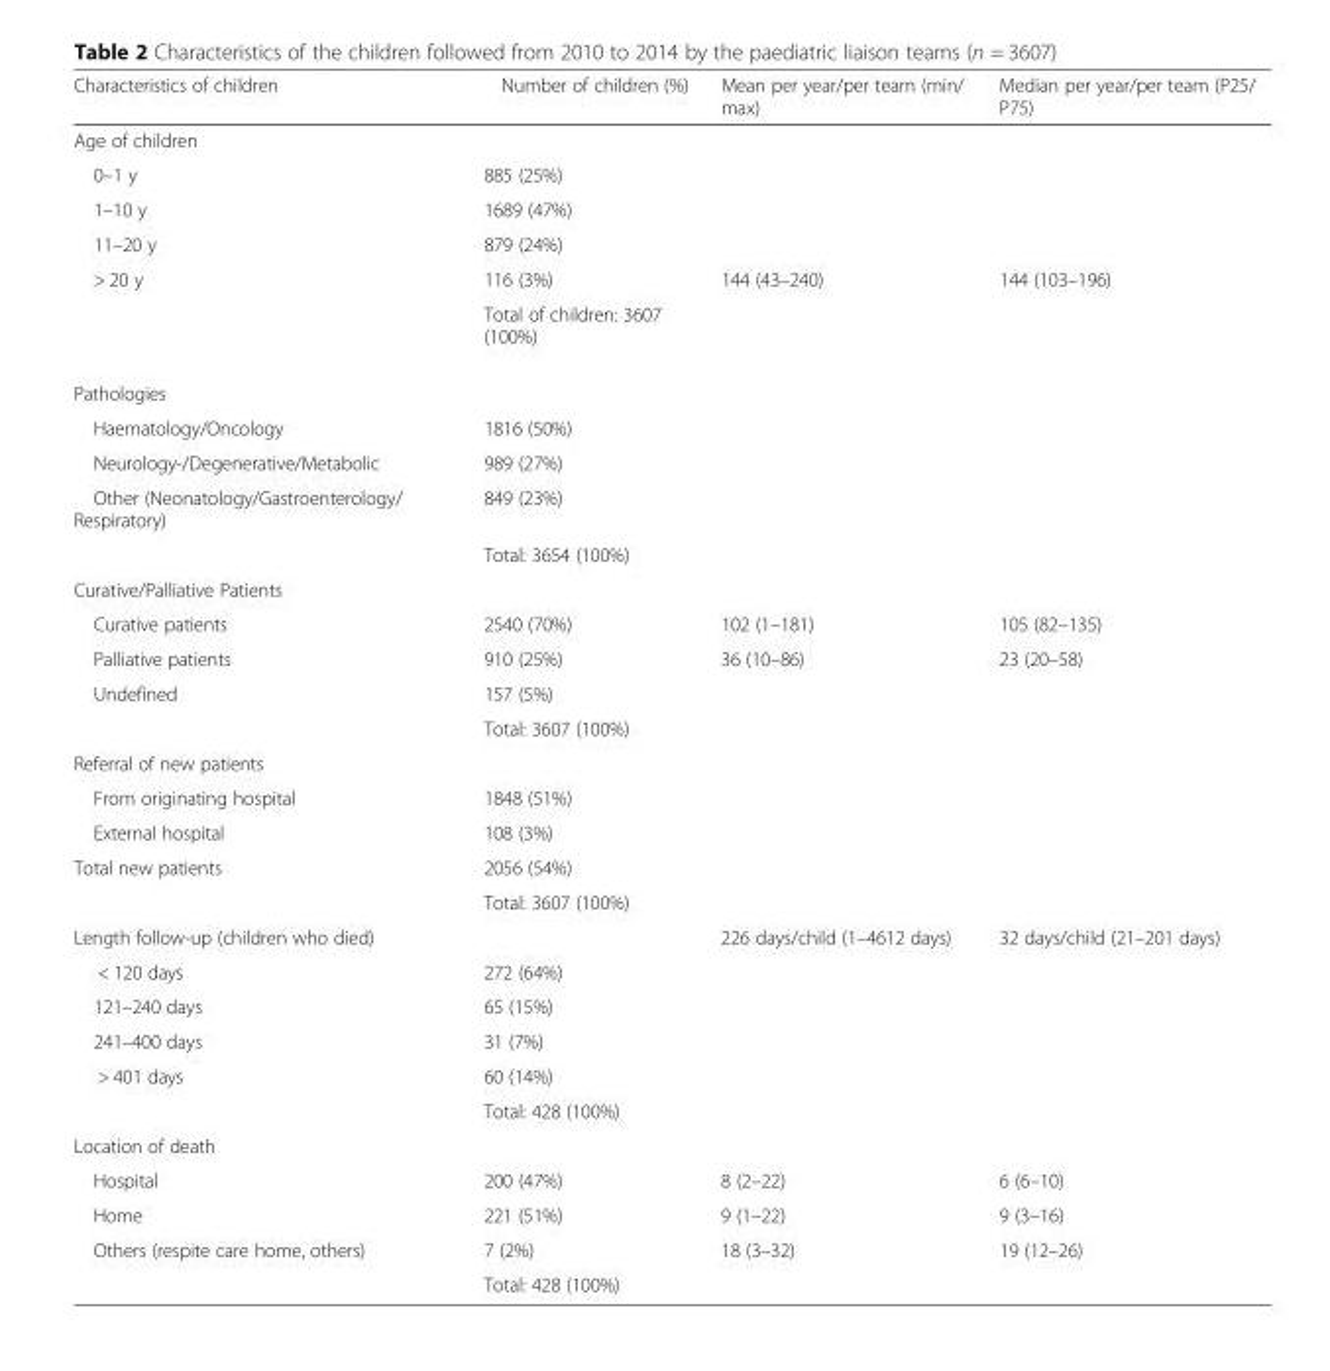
<table><thead><tr><td>Characteristics of children</td><td>Number of children (%)</td><td>Mean per year/per team (min/ max)</td><td>Median per year/per team (P25/ P75)</td></tr></thead><tbody><tr><td colspan="4">Age of children</td></tr><tr><td>0–1 y</td><td>885 (25%)</td><td></td><td></td></tr><tr><td>1–10 y</td><td>1689 (47%)</td><td></td><td></td></tr><tr><td>11–20 y</td><td>879 (24%)</td><td></td><td></td></tr><tr><td rowspan="2">&gt; 20 y</td><td>116 (3%)</td><td>144 (43–240)</td><td>144 (103–196)</td></tr><tr><td>Total of children: 3607 (100%)</td><td></td><td></td></tr><tr><td colspan="4">Pathologies</td></tr><tr><td>Haematology/Oncology</td><td>1816 (50%)</td><td></td><td></td></tr><tr><td>Neurology-/Degenerative/Metabolic</td><td>989 (27%)</td><td></td><td></td></tr><tr><td rowspan="2">Other (Neonatology/Gastroenterology/ Respiratory)</td><td>849 (23%)</td><td></td><td></td></tr><tr><td>Total: 3654 (100%)</td><td></td><td></td></tr><tr><td colspan="4">Curative/Palliative Patients</td></tr><tr><td>Curative patients</td><td>2540 (70%)</td><td>102 (1–181)</td><td>105 (82–135)</td></tr><tr><td>Palliative patients</td><td>910 (25%)</td><td>36 (10–86)</td><td>23 (20–58)</td></tr><tr><td rowspan="2">Undefined</td><td>157 (5%)</td><td></td><td></td></tr><tr><td>Total: 3607 (100%)</td><td></td><td></td></tr><tr><td colspan="4">Referral of new patients</td></tr><tr><td>From originating hospital</td><td>1848 (51%)</td><td></td><td></td></tr><tr><td>External hospital</td><td>108 (3%)</td><td></td><td></td></tr><tr><td rowspan="2">Total new patients</td><td>2056 (54%)</td><td></td><td></td></tr><tr><td>Total: 3607 (100%)</td><td></td><td></td></tr><tr><td>Length follow-up (children who died)</td><td></td><td>226 days/child (1–4612 days)</td><td>32 days/child (21–201 days)</td></tr><tr><td>&lt; 120 days</td><td>272 (64%)</td><td></td><td></td></tr><tr><td>121–240 days</td><td>65 (15%)</td><td></td><td></td></tr><tr><td>241–400 days</td><td>31 (7%)</td><td></td><td></td></tr><tr><td rowspan="2">&gt; 401 days</td><td>60 (14%)</td><td></td><td></td></tr><tr><td>Total: 428 (100%)</td><td></td><td></td></tr><tr><td colspan="4">Location of death</td></tr><tr><td>Hospital</td><td>200 (47%)</td><td>8 (2–22)</td><td>6 (6–10)</td></tr><tr><td>Home</td><td>221 (51%)</td><td>9 (1–22)</td><td>9 (3–16)</td></tr><tr><td rowspan="2">Others (respite care home, others)</td><td>7 (2%)</td><td>18 (3–32)</td><td>19 (12–26)</td></tr><tr><td>Total: 428 (100%)</td><td></td><td></td></tr></tbody></table>